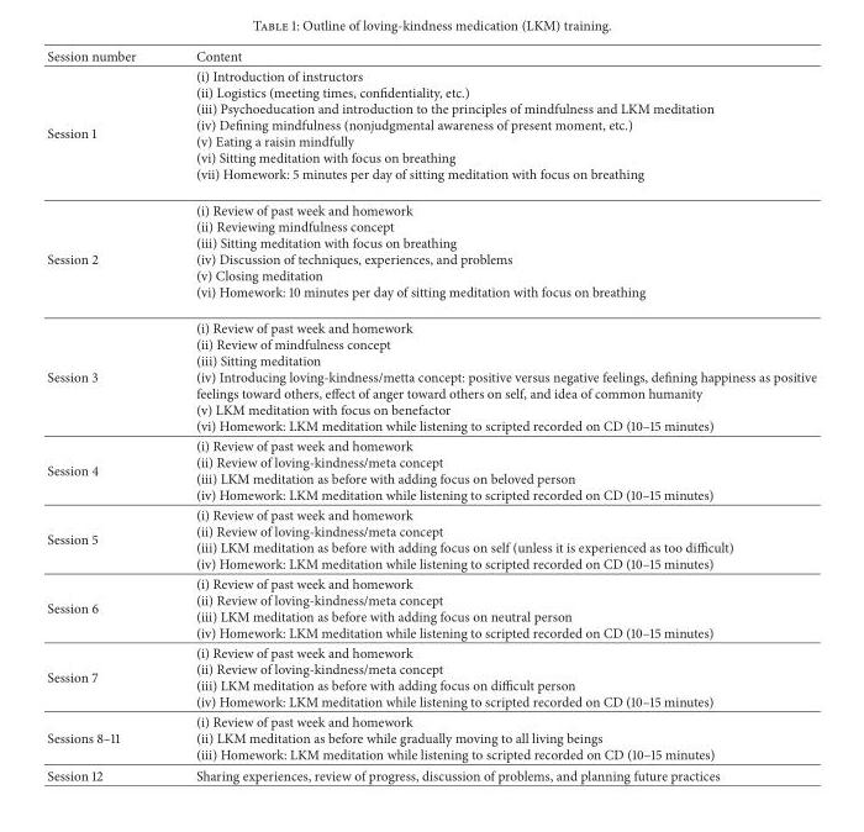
<table><thead><tr><td>Session number</td><td>Content</td></tr></thead><tbody><tr><td>Session 1</td><td>(i) Introduction of instructors (ii) Logistics (meeting times, confidentiality, etc.) (iii) Psychoeducation and introduction to the principles of mindfulness and LKM meditation (iv) Defining mindfulness (nonjudgmental awareness of present moment, etc.) (v) Eating a raisin mindfully (vi) Sitting meditation with focus on breathing (vii) Homework: 5 minutes per day of sitting meditation with focus on breathing</td></tr><tr><td>Session 2</td><td>(i) Review of past week and homework (ii) Reviewing mindfulness concept (iii) Sitting meditation with focus on breathing (iv) Discussion of techniques, experiences, and problems (v) Closing meditation (vi) Homework: 10 minutes per day of sitting meditation with focus on breathing</td></tr><tr><td>Session 3</td><td>(i) Review of past week and homework (ii) Review of mindfulness concept (iii) Sitting meditation (iv) Introducing loving-kindness/metta concept: positive versus negative feelings, defining happiness as positive feelings toward others, effect of anger toward others on self, and idea of common humanity (v) LKM meditation with focus on benefactor (vi) Homework: LKM meditation while listening to scripted recorded on CD (10–15 minutes)</td></tr><tr><td>Session 4</td><td>(i) Review of past week and homework (ii) Review of loving-kindness/meta concept (iii) LKM meditation as before with adding focus on beloved person (iv) Homework: LKM meditation while listening to scripted recorded on CD (10–15 minutes)</td></tr><tr><td>Session 5</td><td>(i) Review of past week and homework (ii) Review of loving-kindness/meta concept (iii) LKM meditation as before with adding focus on self (unless it is experienced as too difficult) (iv) Homework: LKM meditation while listening to scripted recorded on CD (10–15 minutes)</td></tr><tr><td>Session 6</td><td>(i) Review of past week and homework (ii) Review of loving-kindness/meta concept (iii) LKM meditation as before with adding focus on neutral person (iv) Homework: LKM meditation while listening to scripted recorded on CD (10–15 minutes)</td></tr><tr><td>Session 7</td><td>(i) Review of past week and homework (ii) Review of loving-kindness/meta concept (iii) LKM meditation as before with adding focus on difficult person (iv) Homework: LKM meditation while listening to scripted recorded on CD (10–15 minutes)</td></tr><tr><td>Sessions 8–11</td><td>(i) Review of past week and homework (ii) LKM meditation as before while gradually moving to all living beings (iii) Homework: LKM meditation while listening to scripted recorded on CD (10–15 minutes)</td></tr><tr><td>Session 12</td><td>Sharing experiences, review of progress, discussion of problems, and planning future practices</td></tr></tbody></table>